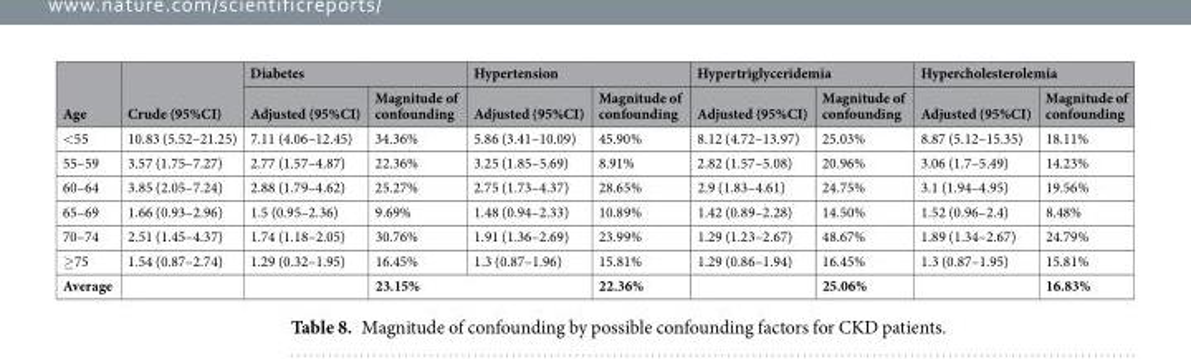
<table><thead><tr><td rowspan="2">Age</td><td rowspan="2">Crude (95%CI)</td><td colspan="2">Diabetes</td><td colspan="2">Hypertension</td><td colspan="2">Hypertriglyceridemia</td><td colspan="2">Hypercholesterolemia</td></tr><tr><td>Adjusted (95%CI)</td><td>Magnitude of confounding</td><td>Adjusted (95%CI)</td><td>Magnitude of confounding</td><td>Adjusted (95%CI)</td><td>Magnitude of confounding</td><td>Adjusted (95%CI)</td><td>Magnitude of confounding</td></tr></thead><tbody><tr><td>&lt;55</td><td>10.83 (5.52–21.25)</td><td>7.11 (4.06–12.45)</td><td>34.36%</td><td>5.86 (3.41–10.09)</td><td>45.90%</td><td>8.12 (4.72–13.97)</td><td>25.03%</td><td>8.87 (5.12–15.35)</td><td>18.11%</td></tr><tr><td>55–59</td><td>3.57 (1.75–7.27)</td><td>2.77 (1.57–4.87)</td><td>22.36%</td><td>3.25 (1.85–5.69)</td><td>8.91%</td><td>2.82 (1.57–5.08)</td><td>20.96%</td><td>3.06 (1.7–5.49)</td><td>14.23%</td></tr><tr><td>60–64</td><td>3.85 (2.05–7.24)</td><td>2.88 (1.79–4.62)</td><td>25.27%</td><td>2.75 (1.73–4.37)</td><td>28.65%</td><td>2.9 (1.83–4.61)</td><td>24.75%</td><td>3.1 (1.94–4.95)</td><td>19.56%</td></tr><tr><td>65–69</td><td>1.66 (0.93–2.96)</td><td>1.5 (0.95–2.36)</td><td>9.69%</td><td>1.48 (0.94–2.33)</td><td>10.89%</td><td>1.42 (0.89–2.28)</td><td>14.50%</td><td>1.52 (0.96–2.4)</td><td>8.48%</td></tr><tr><td>70–74</td><td>2.51 (1.45–4.37)</td><td>1.74 (1.18–2.05)</td><td>30.76%</td><td>1.91 (1.36–2.69)</td><td>23.99%</td><td>1.29 (1.23–2.67)</td><td>48.67%</td><td>1.89 (1.34–2.67)</td><td>24.79%</td></tr><tr><td>≥75</td><td>1.54 (0.87–2.74)</td><td>1.29 (0.32–1.95)</td><td>16.45%</td><td>1.3 (0.87–1.96)</td><td>15.81%</td><td>1.29 (0.86–1.94)</td><td>16.45%</td><td>1.3 (0.87–1.95)</td><td>15.81%</td></tr><tr><td>Average</td><td></td><td></td><td colspan="2">23.15%</td><td>22.36%</td><td></td><td>25.06%</td><td></td><td>16.83%</td></tr></tbody></table>